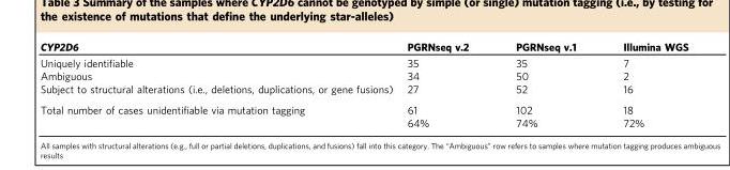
<table><thead><tr><td>CYP2D6</td><td>PGRNseq v.2</td><td>PGRNseq v.1</td><td>Illumina WGS</td></tr></thead><tbody><tr><td>Uniquely identifiable</td><td>35</td><td>35</td><td>7</td></tr><tr><td>Ambiguous</td><td>34</td><td>50</td><td>2</td></tr><tr><td>Subject to structural alterations (i.e., deletions, duplications, or gene fusions)</td><td>27</td><td>52</td><td>16</td></tr><tr><td rowspan="2">Total number of cases unidentifiable via mutation tagging</td><td>61</td><td>102</td><td>18</td></tr><tr><td>64%</td><td>74%</td><td>72%</td></tr></tbody></table>